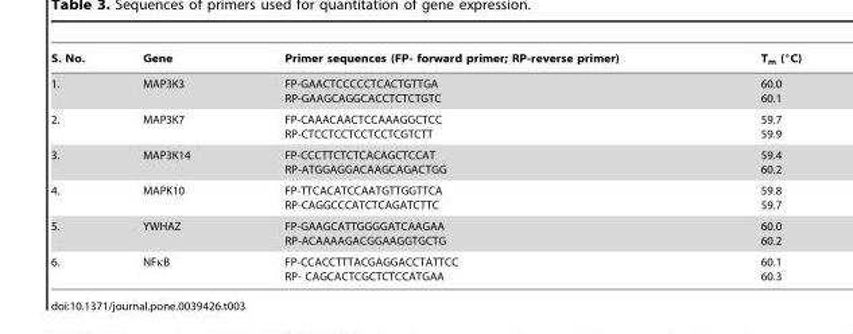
<table><thead><tr><td>S. No.</td><td>Gene</td><td>Primer sequences (FP- forward primer; RP-reverse primer)</td><td>Tm (°C)</td></tr></thead><tbody><tr><td>1.</td><td>MAP3K3</td><td>FP-GAACTCCCCCTCACTGTTGA RP-GAAGCAGGCACCTCTCTGTC</td><td>60.0 60.1</td></tr><tr><td>2.</td><td>MAP3K7</td><td>FP-CAAACAACTCCAAAGGCTCC RP-CTCCTCCTCCTCCTCGTCTT</td><td>59.7 59.9</td></tr><tr><td>3.</td><td>MAP3K14</td><td>FP-CCCTTCTCTCACAGCTCCAT RP-ATGGAGGACAAGCAGACTGG</td><td>59.4 60.2</td></tr><tr><td>4.</td><td>MAPK10</td><td>FP-TTCACATCCAATGTTGGTTCA RP-CAGGCCCATCTCAGATCTTC</td><td>59.8 59.7</td></tr><tr><td>5.</td><td>YWHAZ</td><td>FP-GAAGCATTGGGGATCAAGAA RP-ACAAAAGACGGAAGGTGCTG</td><td>60.0 60.2</td></tr><tr><td>6.</td><td>NFκB</td><td>FP-CCACCTTTACGAGGACCTATTCC RP- CAGCACTCGCTCTCCATGAA</td><td>60.1 60.3</td></tr></tbody></table>